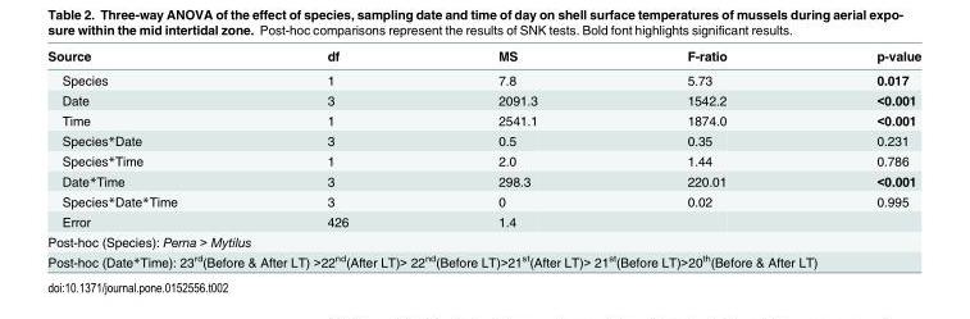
<table><thead><tr><td>Source</td><td>df</td><td>MS</td><td>F-ratio</td><td>p-value</td></tr></thead><tbody><tr><td>Species</td><td>1</td><td>7.8</td><td>5.73</td><td>0.017</td></tr><tr><td>Date</td><td>3</td><td>2091.3</td><td>1542.2</td><td>&lt;0.001</td></tr><tr><td>Time</td><td>1</td><td>2541.1</td><td>1874.0</td><td>&lt;0.001</td></tr><tr><td>Species*Date</td><td>3</td><td>0.5</td><td>0.35</td><td>0.231</td></tr><tr><td>Species*Time</td><td>1</td><td>2.0</td><td>1.44</td><td>0.786</td></tr><tr><td>Date*Time</td><td>3</td><td>298.3</td><td>220.01</td><td>&lt;0.001</td></tr><tr><td>Species*Date*Time</td><td>3</td><td>0</td><td>0.02</td><td>0.995</td></tr><tr><td>Error</td><td>426</td><td>1.4</td><td></td><td></td></tr><tr><td colspan="5">Post-hoc (Species): Perna &gt; Mytilus</td></tr><tr><td colspan="5">Post-hoc (Date*Time): 23<sup>rd</sup>(Before &amp; After LT) &gt;22<sup>nd</sup>(After LT)&gt; 22<sup>nd</sup>(Before LT)&gt;21<sup>st</sup>(After LT)&gt; 21<sup>st</sup>(Before LT)&gt;20<sup>th</sup>(Before &amp; After LT)</td></tr></tbody></table>